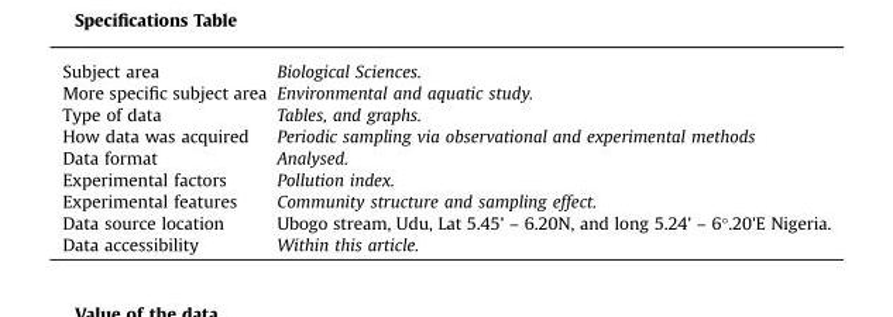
<table><thead><tr><td>Subject area</td><td>Biological Sciences.</td></tr></thead><tbody><tr><td>More specific subject area</td><td>Environmental and aquatic study.</td></tr><tr><td>Type of data</td><td>Tables, and graphs.</td></tr><tr><td>How data was acquired</td><td>Periodic sampling via observational and experimental methods</td></tr><tr><td>Data format</td><td>Analysed.</td></tr><tr><td>Experimental factors</td><td>Pollution index.</td></tr><tr><td>Experimental features</td><td>Community structure and sampling effect.</td></tr><tr><td>Data source location</td><td>Ubogo stream, Udu, Lat 5.45&#x27; – 6.20N, and long 5.24&#x27; – 6°.20&#x27;E Nigeria.</td></tr><tr><td>Data accessibility</td><td>Within this article.</td></tr></tbody></table>